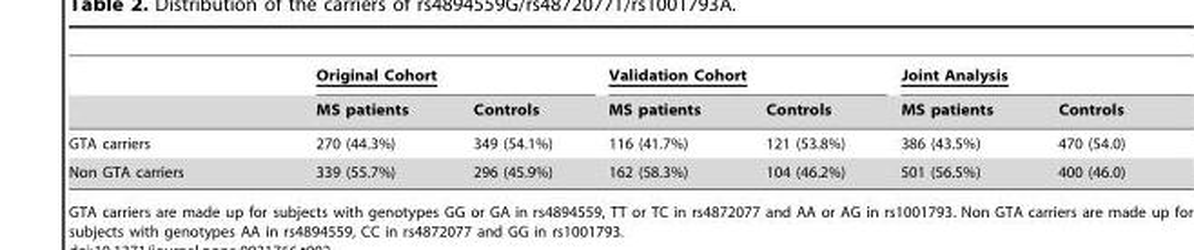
<table><thead><tr><td rowspan="2"></td><td colspan="2">Original Cohort</td><td colspan="2">Validation Cohort</td><td colspan="2">Joint Analysis</td></tr><tr><td>MS patients</td><td>Controls</td><td>MS patients</td><td>Controls</td><td>MS patients</td><td>Controls</td></tr></thead><tbody><tr><td>GTA carriers</td><td>270 (44.3%)</td><td>349 (54.1%)</td><td>116 (41.7%)</td><td>121 (53.8%)</td><td>386 (43.5%)</td><td>470 (54.0)</td></tr><tr><td>Non GTA carriers</td><td>339 (55.7%)</td><td>296 (45.9%)</td><td>162 (58.3%)</td><td>104 (46.2%)</td><td>501 (56.5%)</td><td>400 (46.0)</td></tr></tbody></table>